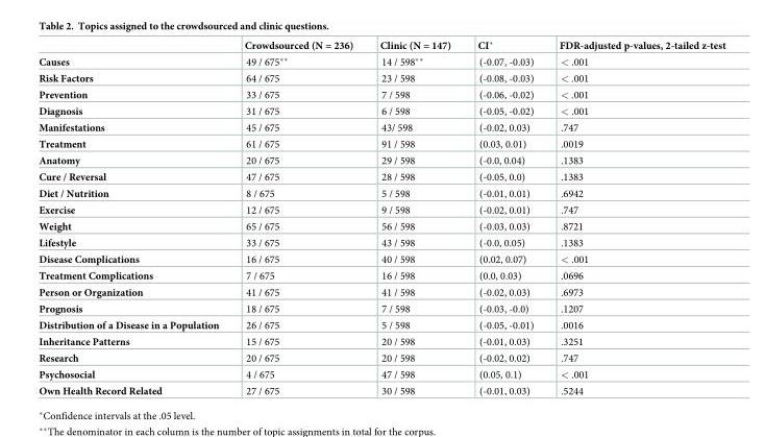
<table><thead><tr><td></td><td>Crowdsourced (N = 236)</td><td>Clinic (N = 147)</td><td>CI*</td><td>FDR-adjusted p-values, 2-tailed z-test</td></tr></thead><tbody><tr><td>Causes</td><td>49 / 675**</td><td>14 / 598**</td><td>(-0.07, -0.03)</td><td>&lt; .001</td></tr><tr><td>Risk Factors</td><td>64 / 675</td><td>23 / 598</td><td>(-0.08, -0.03)</td><td>&lt; .001</td></tr><tr><td>Prevention</td><td>33 / 675</td><td>7 / 598</td><td>(-0.06, -0.02)</td><td>&lt; .001</td></tr><tr><td>Diagnosis</td><td>31 / 675</td><td>6 / 598</td><td>(-0.05, -0.02)</td><td>&lt; .001</td></tr><tr><td>Manifestations</td><td>45 / 675</td><td>43/ 598</td><td>(-0.02, 0.03)</td><td>.747</td></tr><tr><td>Treatment</td><td>61 / 675</td><td>91 / 598</td><td>(0.03, 0.01)</td><td>.0019</td></tr><tr><td>Anatomy</td><td>20 / 675</td><td>29 / 598</td><td>(-0.0, 0.04)</td><td>.1383</td></tr><tr><td>Cure / Reversal</td><td>47 / 675</td><td>28 / 598</td><td>(-0.05, 0.0)</td><td>.1383</td></tr><tr><td>Diet / Nutrition</td><td>8 / 675</td><td>5 / 598</td><td>(-0.01, 0.01)</td><td>.6942</td></tr><tr><td>Exercise</td><td>12 / 675</td><td>9 / 598</td><td>(-0.02, 0.01)</td><td>.747</td></tr><tr><td>Weight</td><td>65 / 675</td><td>56 / 598</td><td>(-0.03, 0.03)</td><td>.8721</td></tr><tr><td>Lifestyle</td><td>33 / 675</td><td>43 / 598</td><td>(-0.0, 0.05)</td><td>.1383</td></tr><tr><td>Disease Complications</td><td>16 / 675</td><td>40 / 598</td><td>(0.02, 0.07)</td><td>&lt; .001</td></tr><tr><td>Treatment Complications</td><td>7 / 675</td><td>16 / 598</td><td>(0.0, 0.03)</td><td>.0696</td></tr><tr><td>Person or Organization</td><td>41 / 675</td><td>41 / 598</td><td>(-0.02, 0.03)</td><td>.6973</td></tr><tr><td>Prognosis</td><td>18 / 675</td><td>7 / 598</td><td>(-0.03, -0.0)</td><td>.1207</td></tr><tr><td>Distribution of a Disease in a Population</td><td>26 / 675</td><td>5 / 598</td><td>(-0.05, -0.01)</td><td>.0016</td></tr><tr><td>Inheritance Patterns</td><td>15 / 675</td><td>20 / 598</td><td>(-0.01, 0.03)</td><td>.3251</td></tr><tr><td>Research</td><td>20 / 675</td><td>20 / 598</td><td>(-0.02, 0.02)</td><td>.747</td></tr><tr><td>Psychosocial</td><td>4 / 675</td><td>47 / 598</td><td>(0.05, 0.1)</td><td>&lt; .001</td></tr><tr><td>Own Health Record Related</td><td>27 / 675</td><td>30 / 598</td><td>(-0.01, 0.03)</td><td>.5244</td></tr></tbody></table>